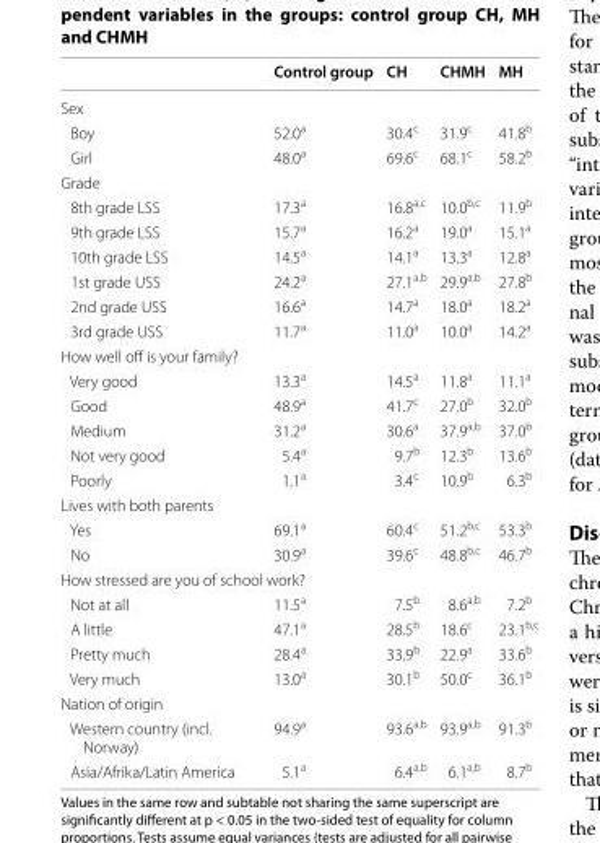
<table><thead><tr><td></td><td>Control group</td><td>CH</td><td>CHMH</td><td>MH</td></tr></thead><tbody><tr><td colspan="5">Sex</td></tr><tr><td>Boy</td><td>52.0<sup>a</sup></td><td>30.4<sup>c</sup></td><td>31.9<sup>c</sup></td><td>41.8<sup>b</sup></td></tr><tr><td>Girl</td><td>48.0<sup>a</sup></td><td>69.6<sup>c</sup></td><td>68.1<sup>c</sup></td><td>58.2<sup>b</sup></td></tr><tr><td colspan="5">Grade</td></tr><tr><td>8th grade LSS</td><td>17.3<sup>a</sup></td><td>16.8<sup>a,c</sup></td><td>10.0<sup>b,c</sup></td><td>11.9<sup>b</sup></td></tr><tr><td>9th grade LSS</td><td>15.7<sup>a</sup></td><td>16.2<sup>a</sup></td><td>19.0<sup>a</sup></td><td>15.1<sup>a</sup></td></tr><tr><td>10th grade LSS</td><td>14.5<sup>a</sup></td><td>14.1<sup>a</sup></td><td>13.3<sup>a</sup></td><td>12.8<sup>a</sup></td></tr><tr><td>1st grade USS</td><td>24.2<sup>a</sup></td><td>27.1<sup>a,b</sup></td><td>29.9<sup>a,b</sup></td><td>27.8<sup>b</sup></td></tr><tr><td>2nd grade USS</td><td>16.6<sup>a</sup></td><td>14.7<sup>a</sup></td><td>18.0<sup>a</sup></td><td>18.2<sup>a</sup></td></tr><tr><td>3rd grade USS</td><td>11.7<sup>a</sup></td><td>11.0<sup>a</sup></td><td>10.0<sup>a</sup></td><td>14.2<sup>a</sup></td></tr><tr><td colspan="5">How well off is your family?</td></tr><tr><td>Very good</td><td>13.3<sup>a</sup></td><td>14.5<sup>a</sup></td><td>11.8<sup>a</sup></td><td>11.1<sup>a</sup></td></tr><tr><td>Good</td><td>48.9<sup>a</sup></td><td>41.7<sup>c</sup></td><td>27.0<sup>b</sup></td><td>32.0<sup>b</sup></td></tr><tr><td>Medium</td><td>31.2<sup>a</sup></td><td>30.6<sup>a</sup></td><td>37.9<sup>a,b</sup></td><td>37.0<sup>b</sup></td></tr><tr><td>Not very good</td><td>5.4<sup>a</sup></td><td>9.7<sup>b</sup></td><td>12.3<sup>b</sup></td><td>13.6<sup>b</sup></td></tr><tr><td>Poorly</td><td>1.1<sup>a</sup></td><td>3.4<sup>c</sup></td><td>10.9<sup>b</sup></td><td>6.3<sup>b</sup></td></tr><tr><td colspan="5">Lives with both parents</td></tr><tr><td>Yes</td><td>69.1<sup>a</sup></td><td>60.4<sup>c</sup></td><td>51.2<sup>b,c</sup></td><td>53.3<sup>b</sup></td></tr><tr><td>No</td><td>30.9<sup>a</sup></td><td>39.6<sup>c</sup></td><td>48.8<sup>b,c</sup></td><td>46.7<sup>b</sup></td></tr><tr><td colspan="5">How stressed are you of school work?</td></tr><tr><td>Not at all</td><td>11.5<sup>a</sup></td><td>7.5<sup>b</sup></td><td>8.6<sup>a,b</sup></td><td>7.2<sup>b</sup></td></tr><tr><td>A little</td><td>47.1<sup>a</sup></td><td>28.5<sup>b</sup></td><td>18.6<sup>c</sup></td><td>23.1<sup>b,c</sup></td></tr><tr><td>Pretty much</td><td>28.4<sup>a</sup></td><td>33.9<sup>b</sup></td><td>22.9<sup>a</sup></td><td>33.6<sup>b</sup></td></tr><tr><td>Very much</td><td>13.0<sup>a</sup></td><td>30.1<sup>b</sup></td><td>50.0<sup>c</sup></td><td>36.1<sup>b</sup></td></tr><tr><td colspan="5">Nation of origin</td></tr><tr><td>Western country (incl. Norway)</td><td>94.9<sup>a</sup></td><td>93.6<sup>a,b</sup></td><td>93.9<sup>a,b</sup></td><td>91.3<sup>b</sup></td></tr><tr><td>Asia/Afrika/Latin America</td><td>5.1<sup>a</sup></td><td>6.4<sup>a,b</sup></td><td>6.1<sup>a,b</sup></td><td>8.7<sup>b</sup></td></tr></tbody></table>